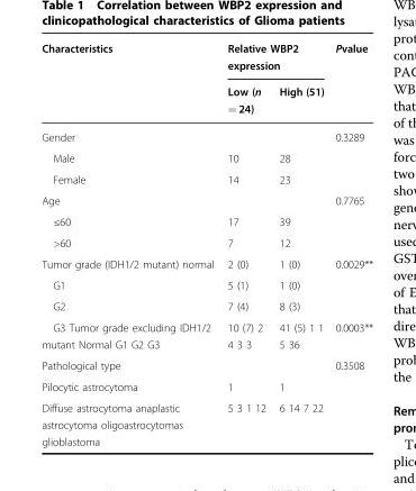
<table><thead><tr><td rowspan="2">Characteristics</td><td colspan="2">Relative WBP2 expression</td><td rowspan="2">Pvalue</td></tr><tr><td>Low (n = 24)</td><td>High (51)</td></tr></thead><tbody><tr><td>Gender</td><td></td><td></td><td>0.3289</td></tr><tr><td>Male</td><td>10</td><td>28</td><td></td></tr><tr><td>Female</td><td>14</td><td>23</td><td></td></tr><tr><td>Age</td><td></td><td></td><td>0.7765</td></tr><tr><td>≤60</td><td>17</td><td>39</td><td></td></tr><tr><td>&gt;60</td><td>7</td><td>12</td><td></td></tr><tr><td>Tumor grade (IDH1/2 mutant) normal</td><td>2 (0)</td><td>1 (0)</td><td>0.0029**</td></tr><tr><td>G1</td><td>5 (1)</td><td>1 (0)</td><td></td></tr><tr><td>G2</td><td>7 (4)</td><td>8 (3)</td><td></td></tr><tr><td>G3 Tumor grade excluding IDH1/2 mutant Normal G1 G2 G3</td><td>10 (7) 2 4 3 3</td><td>41 (5) 1 1 5 36</td><td>0.0003**</td></tr><tr><td>Pathological type</td><td></td><td></td><td>0.3508</td></tr><tr><td>Pilocytic astrocytoma</td><td>1</td><td>1</td><td></td></tr><tr><td>Diffuse astrocytoma anaplastic astrocytoma oligoastrocytomas glioblastoma</td><td>5 3 1 12</td><td>6 14 7 22</td><td></td></tr></tbody></table>